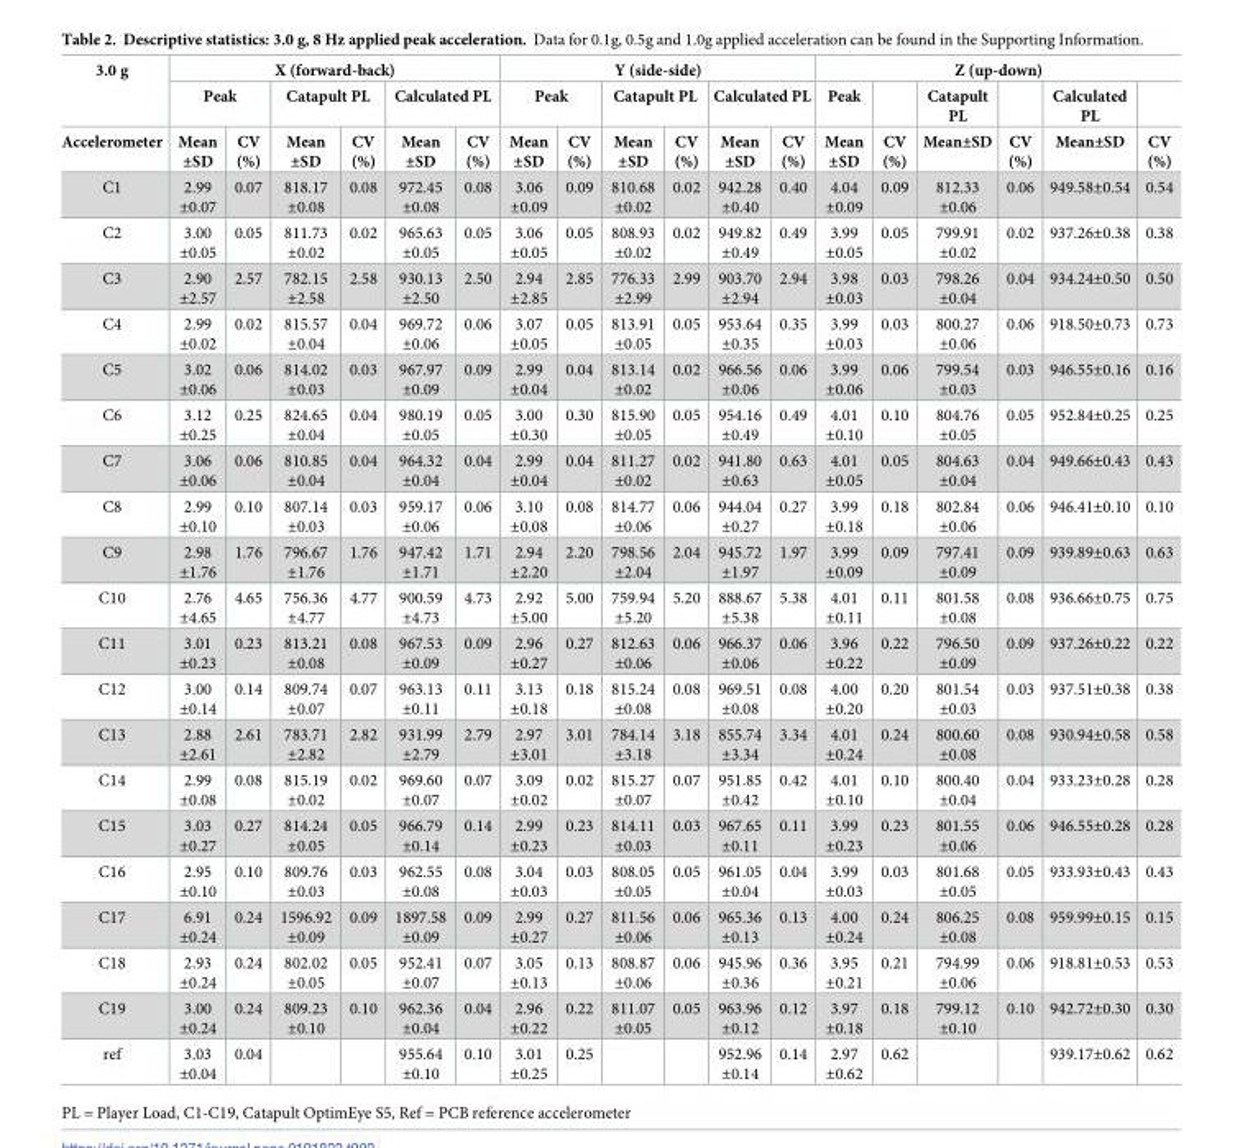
<table><thead><tr><td rowspan="3">3.0 g Accelerometer</td><td colspan="6">X (forward-back)</td><td colspan="6">Y (side-side)</td><td colspan="6">Z (up-down)</td></tr><tr><td colspan="2">Peak</td><td colspan="2">Catapult PL</td><td colspan="2">Calculated PL</td><td colspan="2">Peak</td><td colspan="2">Catapult PL</td><td colspan="2">Calculated PL</td><td rowspan="2">Peak Mean ±SD</td><td rowspan="2">CV (%)</td><td rowspan="2">Catapult PL Mean±SD</td><td rowspan="2">CV (%)</td><td rowspan="2">Calculated PL Mean±SD</td><td rowspan="2">CV (%)</td></tr><tr><td>Mean ±SD</td><td>CV (%)</td><td>Mean ±SD</td><td>CV (%)</td><td>Mean ±SD</td><td>CV (%)</td><td>Mean ±SD</td><td>CV (%)</td><td>Mean ±SD</td><td>CV (%)</td><td>Mean ±SD</td><td>CV (%)</td></tr></thead><tbody><tr><td>C1</td><td>2.99 ±0.07</td><td>0.07</td><td>818.17 ±0.08</td><td>0.08</td><td>972.45 ±0.08</td><td>0.08</td><td>3.06 ±0.09</td><td>0.09</td><td>810.68 ±0.02</td><td>0.02</td><td>942.28 ±0.40</td><td>0.40</td><td>4.04 ±0.09</td><td>0.09</td><td>812.33 ±0.06</td><td>0.06</td><td>949.58±0.54</td><td>0.54</td></tr><tr><td>C2</td><td>3.00 ±0.05</td><td>0.05</td><td>811.73 ±0.02</td><td>0.02</td><td>965.63 ±0.05</td><td>0.05</td><td>3.06 ±0.05</td><td>0.05</td><td>808.93 ±0.02</td><td>0.02</td><td>949.82 ±0.49</td><td>0.49</td><td>3.99 ±0.05</td><td>0.05</td><td>799.91 ±0.02</td><td>0.02</td><td>937.26±0.38</td><td>0.38</td></tr><tr><td>C3</td><td>2.90 ±2.57</td><td>2.57</td><td>782.15 ±2.58</td><td>2.58</td><td>930.13 ±2.50</td><td>2.50</td><td>2.94 ±2.85</td><td>2.85</td><td>776.33 ±2.99</td><td>2.99</td><td>903.70 ±2.94</td><td>2.94</td><td>3.98 ±0.03</td><td>0.03</td><td>798.26 ±0.04</td><td>0.04</td><td>934.24±0.50</td><td>0.50</td></tr><tr><td>C4</td><td>2.99 ±0.02</td><td>0.02</td><td>815.57 ±0.04</td><td>0.04</td><td>969.72 ±0.06</td><td>0.06</td><td>3.07 ±0.05</td><td>0.05</td><td>813.91 ±0.05</td><td>0.05</td><td>953.64 ±0.35</td><td>0.35</td><td>3.99 ±0.03</td><td>0.03</td><td>800.27 ±0.06</td><td>0.06</td><td>918.50±0.73</td><td>0.73</td></tr><tr><td>C5</td><td>3.02 ±0.06</td><td>0.06</td><td>814.02 ±0.03</td><td>0.03</td><td>967.97 ±0.09</td><td>0.09</td><td>2.99 ±0.04</td><td>0.04</td><td>813.14 ±0.02</td><td>0.02</td><td>966.56 ±0.06</td><td>0.06</td><td>3.99 ±0.06</td><td>0.06</td><td>799.54 ±0.03</td><td>0.03</td><td>946.55±0.16</td><td>0.16</td></tr><tr><td>C6</td><td>3.12 ±0.25</td><td>0.25</td><td>824.65 ±0.04</td><td>0.04</td><td>980.19 ±0.05</td><td>0.05</td><td>3.00 ±0.30</td><td>0.30</td><td>815.90 ±0.05</td><td>0.05</td><td>954.16 ±0.49</td><td>0.49</td><td>4.01 ±0.10</td><td>0.10</td><td>804.76 ±0.05</td><td>0.05</td><td>952.84±0.25</td><td>0.25</td></tr><tr><td>C7</td><td>3.06 ±0.06</td><td>0.06</td><td>810.85 ±0.04</td><td>0.04</td><td>964.32 ±0.04</td><td>0.04</td><td>2.99 ±0.04</td><td>0.04</td><td>811.27 ±0.02</td><td>0.02</td><td>941.80 ±0.63</td><td>0.63</td><td>4.01 ±0.05</td><td>0.05</td><td>804.63 ±0.04</td><td>0.04</td><td>949.66±0.43</td><td>0.43</td></tr><tr><td>C8</td><td>2.99 ±0.10</td><td>0.10</td><td>807.14 ±0.03</td><td>0.03</td><td>959.17 ±0.06</td><td>0.06</td><td>3.10 ±0.08</td><td>0.08</td><td>814.77 ±0.06</td><td>0.06</td><td>944.04 ±0.27</td><td>0.27</td><td>3.99 ±0.18</td><td>0.18</td><td>802.84 ±0.06</td><td>0.06</td><td>946.41±0.10</td><td>0.10</td></tr><tr><td>C9</td><td>2.98 ±1.76</td><td>1.76</td><td>796.67 ±1.76</td><td>1.76</td><td>947.42 ±1.71</td><td>1.71</td><td>2.94 ±2.20</td><td>2.20</td><td>798.56 ±2.04</td><td>2.04</td><td>945.72 ±1.97</td><td>1.97</td><td>3.99 ±0.09</td><td>0.09</td><td>797.41 ±0.09</td><td>0.09</td><td>939.89±0.63</td><td>0.63</td></tr><tr><td>C10</td><td>2.76 ±4.65</td><td>4.65</td><td>756.36 ±4.77</td><td>4.77</td><td>900.59 ±4.73</td><td>4.73</td><td>2.92 ±5.00</td><td>5.00</td><td>759.94 ±5.20</td><td>5.20</td><td>888.67 ±5.38</td><td>5.38</td><td>4.01 ±0.11</td><td>0.11</td><td>801.58 ±0.08</td><td>0.08</td><td>936.66±0.75</td><td>0.75</td></tr><tr><td>C11</td><td>3.01 ±0.23</td><td>0.23</td><td>813.21 ±0.08</td><td>0.08</td><td>967.53 ±0.09</td><td>0.09</td><td>2.96 ±0.27</td><td>0.27</td><td>812.63 ±0.06</td><td>0.06</td><td>966.37 ±0.06</td><td>0.06</td><td>3.96 ±0.22</td><td>0.22</td><td>796.50 ±0.09</td><td>0.09</td><td>937.26±0.22</td><td>0.22</td></tr><tr><td>C12</td><td>3.00 ±0.14</td><td>0.14</td><td>809.74 ±0.07</td><td>0.07</td><td>963.13 ±0.11</td><td>0.11</td><td>3.13 ±0.18</td><td>0.18</td><td>815.24 ±0.08</td><td>0.08</td><td>969.51 ±0.08</td><td>0.08</td><td>4.00 ±0.20</td><td>0.20</td><td>801.54 ±0.03</td><td>0.03</td><td>937.51±0.38</td><td>0.38</td></tr><tr><td>C13</td><td>2.88 ±2.61</td><td>2.61</td><td>783.71 ±2.82</td><td>2.82</td><td>931.99 ±2.79</td><td>2.79</td><td>2.97 ±3.01</td><td>3.01</td><td>784.14 ±3.18</td><td>3.18</td><td>855.74 ±3.34</td><td>3.34</td><td>4.01 ±0.24</td><td>0.24</td><td>800.60 ±0.08</td><td>0.08</td><td>930.94±0.58</td><td>0.58</td></tr><tr><td>C14</td><td>2.99 ±0.08</td><td>0.08</td><td>815.19 ±0.02</td><td>0.02</td><td>969.60 ±0.07</td><td>0.07</td><td>3.09 ±0.02</td><td>0.02</td><td>815.27 ±0.07</td><td>0.07</td><td>951.85 ±0.42</td><td>0.42</td><td>4.01 ±0.10</td><td>0.10</td><td>800.40 ±0.04</td><td>0.04</td><td>933.23±0.28</td><td>0.28</td></tr><tr><td>C15</td><td>3.03 ±0.27</td><td>0.27</td><td>814.24 ±0.05</td><td>0.05</td><td>966.79 ±0.14</td><td>0.14</td><td>2.99 ±0.23</td><td>0.23</td><td>814.11 ±0.03</td><td>0.03</td><td>967.65 ±0.11</td><td>0.11</td><td>3.99 ±0.23</td><td>0.23</td><td>801.55 ±0.06</td><td>0.06</td><td>946.55±0.28</td><td>0.28</td></tr><tr><td>C16</td><td>2.95 ±0.10</td><td>0.10</td><td>809.76 ±0.03</td><td>0.03</td><td>962.55 ±0.08</td><td>0.08</td><td>3.04 ±0.03</td><td>0.03</td><td>808.05 ±0.05</td><td>0.05</td><td>961.05 ±0.04</td><td>0.04</td><td>3.99 ±0.03</td><td>0.03</td><td>801.68 ±0.05</td><td>0.05</td><td>933.93±0.43</td><td>0.43</td></tr><tr><td>C17</td><td>6.91 ±0.24</td><td>0.24</td><td>1596.92 ±0.09</td><td>0.09</td><td>1897.58 ±0.09</td><td>0.09</td><td>2.99 ±0.27</td><td>0.27</td><td>811.56 ±0.06</td><td>0.06</td><td>965.36 ±0.13</td><td>0.13</td><td>4.00 ±0.24</td><td>0.24</td><td>806.25 ±0.08</td><td>0.08</td><td>959.99±0.15</td><td>0.15</td></tr><tr><td>C18</td><td>2.93 ±0.24</td><td>0.24</td><td>802.02 ±0.05</td><td>0.05</td><td>952.41 ±0.07</td><td>0.07</td><td>3.05 ±0.13</td><td>0.13</td><td>808.87 ±0.06</td><td>0.06</td><td>945.96 ±0.36</td><td>0.36</td><td>3.95 ±0.21</td><td>0.21</td><td>794.99 ±0.06</td><td>0.06</td><td>918.81±0.53</td><td>0.53</td></tr><tr><td>C19</td><td>3.00 ±0.24</td><td>0.24</td><td>809.23 ±0.10</td><td>0.10</td><td>962.36 ±0.04</td><td>0.04</td><td>2.96 ±0.22</td><td>0.22</td><td>811.07 ±0.05</td><td>0.05</td><td>963.96 ±0.12</td><td>0.12</td><td>3.97 ±0.18</td><td>0.18</td><td>799.12 ±0.10</td><td>0.10</td><td>942.72±0.30</td><td>0.30</td></tr><tr><td>ref</td><td>3.03 ±0.04</td><td>0.04</td><td></td><td></td><td>955.64 ±0.10</td><td>0.10</td><td>3.01 ±0.25</td><td>0.25</td><td></td><td></td><td>952.96 ±0.14</td><td>0.14</td><td>2.97 ±0.62</td><td>0.62</td><td></td><td></td><td>939.17±0.62</td><td>0.62</td></tr></tbody></table>